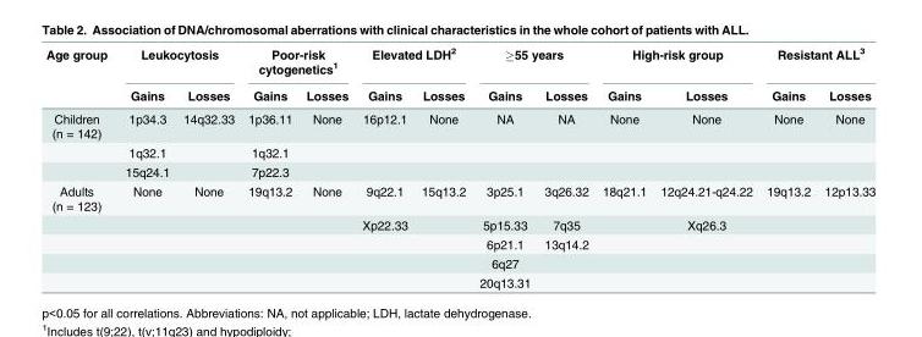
<table><thead><tr><td rowspan="2">Age group</td><td colspan="2">Leukocytosis</td><td colspan="2">Poor-risk cytogenetics<sup>1</sup></td><td colspan="2">Elevated LDH<sup>2</sup></td><td colspan="2">≥55 years</td><td colspan="2">High-risk group</td><td colspan="2">Resistant ALL<sup>3</sup></td></tr><tr><td>Gains</td><td>Losses</td><td>Gains</td><td>Losses</td><td>Gains</td><td>Losses</td><td>Gains</td><td>Losses</td><td>Gains</td><td>Losses</td><td>Gains</td><td>Losses</td></tr></thead><tbody><tr><td rowspan="3">Children (n = 142)</td><td>1p34.3</td><td>14q32.33</td><td>1p36.11</td><td>None</td><td>16p12.1</td><td>None</td><td>NA</td><td>NA</td><td>None</td><td>None</td><td>None</td><td>None</td></tr><tr><td>1q32.1</td><td></td><td>1q32.1</td><td></td><td></td><td></td><td></td><td></td><td></td><td></td><td></td><td></td></tr><tr><td>15q24.1</td><td></td><td>7p22.3</td><td></td><td></td><td></td><td></td><td></td><td></td><td></td><td></td><td></td></tr><tr><td rowspan="5">Adults (n = 123)</td><td>None</td><td>None</td><td>19q13.2</td><td>None</td><td>9q22.1</td><td>15q13.2</td><td>3p25.1</td><td>3q26.32</td><td>18q21.1</td><td>12q24.21-q24.22</td><td>19q13.2</td><td>12p13.33</td></tr><tr><td></td><td></td><td></td><td></td><td>Xp22.33</td><td></td><td>5p15.33</td><td>7q35</td><td></td><td>Xq26.3</td><td></td><td></td></tr><tr><td></td><td></td><td></td><td></td><td></td><td></td><td>6p21.1</td><td>13q14.2</td><td></td><td></td><td></td><td></td></tr><tr><td></td><td></td><td></td><td></td><td></td><td></td><td>6q27</td><td></td><td></td><td></td><td></td><td></td></tr><tr><td></td><td></td><td></td><td></td><td></td><td></td><td>20q13.31</td><td></td><td></td><td></td><td></td><td></td></tr></tbody></table>